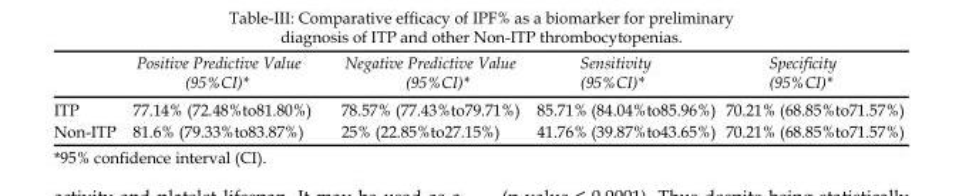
<table><thead><tr><td></td><td>Positive Predictive Value (95%CI)*</td><td>Negative Predictive Value (95%CI)*</td><td>Sensitivity (95%CI)*</td><td>Specificity (95%CI)*</td></tr></thead><tbody><tr><td>ITP</td><td>77.14% (72.48%to81.80%)</td><td>78.57% (77.43%to79.71%)</td><td>85.71% (84.04%to85.96%)</td><td>70.21% (68.85%to71.57%)</td></tr><tr><td>Non-ITP</td><td>81.6% (79.33%to83.87%)</td><td>25% (22.85%to27.15%)</td><td>41.76% (39.87%to43.65%)</td><td>70.21% (68.85%to71.57%)</td></tr></tbody></table>